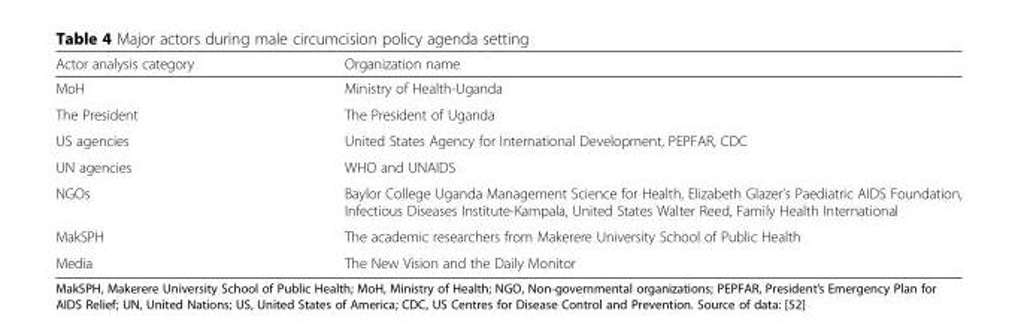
<table><thead><tr><td>Actor analysis category</td><td>Organization name</td></tr></thead><tbody><tr><td>MoH</td><td>Ministry of Health-Uganda</td></tr><tr><td>The President</td><td>The President of Uganda</td></tr><tr><td>US agencies</td><td>United States Agency for International Development, PEPFAR, CDC</td></tr><tr><td>UN agencies</td><td>WHO and UNAIDS</td></tr><tr><td>NGOs</td><td>Baylor College Uganda Management Science for Health, Elizabeth Glazer’s Paediatric AIDS Foundation, Infectious Diseases Institute-Kampala, United States Walter Reed, Family Health International</td></tr><tr><td>MakSPH</td><td>The academic researchers from Makerere University School of Public Health</td></tr><tr><td>Media</td><td>The New Vision and the Daily Monitor</td></tr></tbody></table>